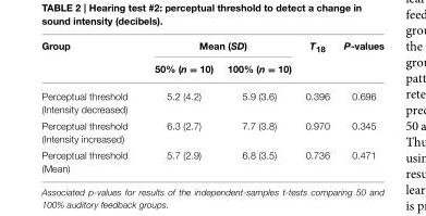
<table><thead><tr><td rowspan="2">Group</td><td colspan="2">Mean (SD)</td><td rowspan="2">T<sub>18</sub></td><td rowspan="2">P-values</td></tr><tr><td>50% (n = 10)</td><td>100% (n = 10)</td></tr></thead><tbody><tr><td>Perceptual threshold (Intensity decreased)</td><td>5.2 (4.2)</td><td>5.9 (3.6)</td><td>0.396</td><td>0.696</td></tr><tr><td>Perceptual threshold (Intensity increased)</td><td>6.3 (2.7)</td><td>7.7 (3.8)</td><td>0.970</td><td>0.345</td></tr><tr><td>Perceptual threshold (Mean)</td><td>5.7 (2.9)</td><td>6.8 (3.5)</td><td>0.736</td><td>0.471</td></tr></tbody></table>